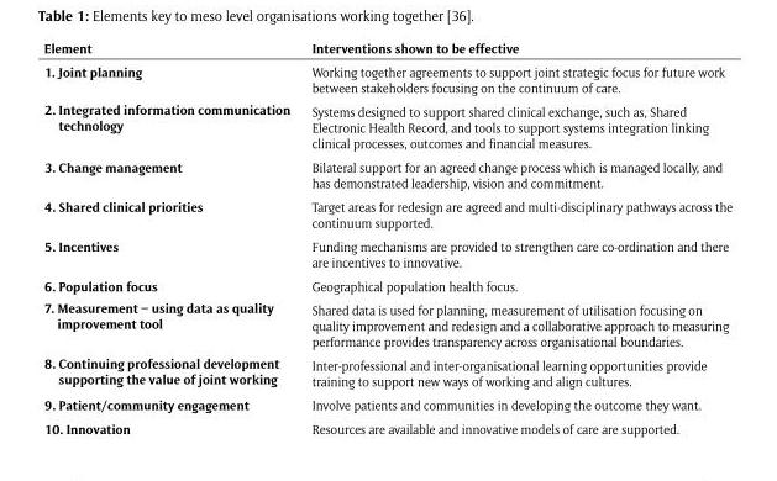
<table><thead><tr><td>Element</td><td>Interventions shown to be effective</td></tr></thead><tbody><tr><td>1. Joint planning</td><td>Working together agreements to support joint strategic focus for future work between stakeholders focusing on the continuum of care.</td></tr><tr><td>2. Integrated information communication technology</td><td>Systems designed to support shared clinical exchange, such as, Shared Electronic Health Record, and tools to support systems integration linking clinical processes, outcomes and financial measures.</td></tr><tr><td>3. Change management</td><td>Bilateral support for an agreed change process which is managed locally, and has demonstrated leadership, vision and commitment.</td></tr><tr><td>4. Shared clinical priorities</td><td>Target areas for redesign are agreed and multi-disciplinary pathways across the continuum supported.</td></tr><tr><td>5. Incentives</td><td>Funding mechanisms are provided to strengthen care co-ordination and there are incentives to innovative.</td></tr><tr><td>6. Population focus</td><td>Geographical population health focus.</td></tr><tr><td>7. Measurement – using data as quality improvement tool</td><td>Shared data is used for planning, measurement of utilisation focusing on quality improvement and redesign and a collaborative approach to measuring performance provides transparency across organisational boundaries.</td></tr><tr><td>8. Continuing professional development supporting the value of joint working</td><td>Inter-professional and inter-organisational learning opportunities provide training to support new ways of working and align cultures.</td></tr><tr><td>9. Patient/community engagement</td><td>Involve patients and communities in developing the outcome they want.</td></tr><tr><td>10. Innovation</td><td>Resources are available and innovative models of care are supported.</td></tr></tbody></table>